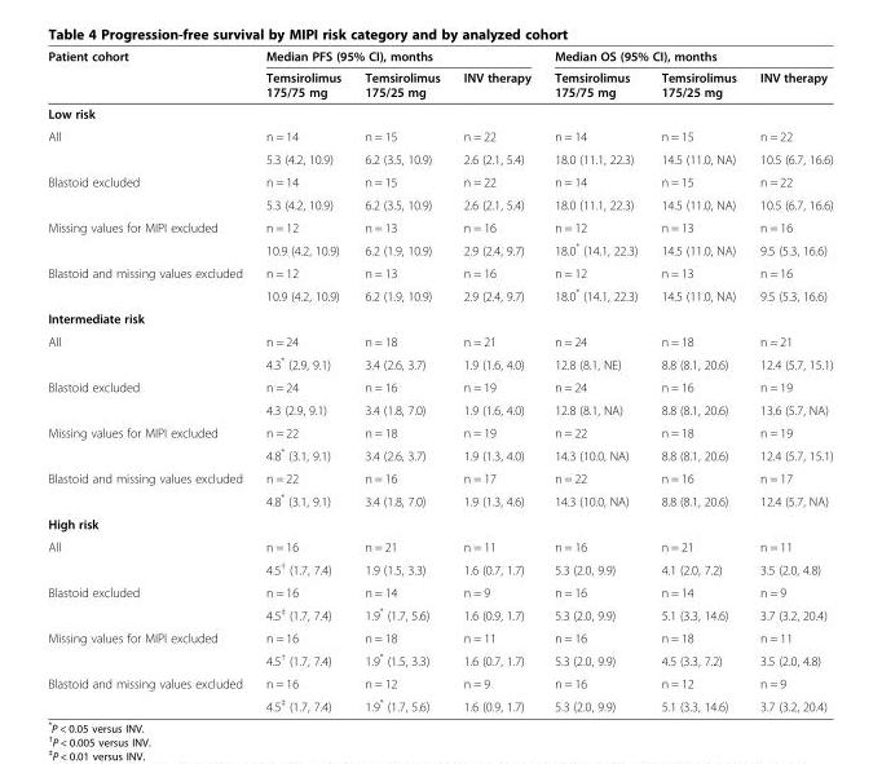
<table><thead><tr><td rowspan="2">Patient cohort</td><td colspan="3">Median PFS (95% CI), months</td><td colspan="3">Median OS (95% CI), months</td></tr><tr><td>Temsirolimus 175/75 mg</td><td>Temsirolimus 175/25 mg</td><td>INV therapy</td><td>Temsirolimus 175/75 mg</td><td>Temsirolimus 175/25 mg</td><td>INV therapy</td></tr></thead><tbody><tr><td colspan="7">Low risk</td></tr><tr><td rowspan="2">All</td><td>n = 14</td><td>n = 15</td><td>n = 22</td><td>n = 14</td><td>n = 15</td><td>n = 22</td></tr><tr><td>5.3 (4.2, 10.9)</td><td>6.2 (3.5, 10.9)</td><td>2.6 (2.1, 5.4)</td><td>18.0 (11.1, 22.3)</td><td>14.5 (11.0, NA)</td><td>10.5 (6.7, 16.6)</td></tr><tr><td rowspan="2">Blastoid excluded</td><td>n = 14</td><td>n = 15</td><td>n = 22</td><td>n = 14</td><td>n = 15</td><td>n = 22</td></tr><tr><td>5.3 (4.2, 10.9)</td><td>6.2 (3.5, 10.9)</td><td>2.6 (2.1, 5.4)</td><td>18.0 (11.1, 22.3)</td><td>14.5 (11.0, NA)</td><td>10.5 (6.7, 16.6)</td></tr><tr><td rowspan="2">Missing values for MIPI excluded</td><td>n = 12</td><td>n = 13</td><td>n = 16</td><td>n = 12</td><td>n = 13</td><td>n = 16</td></tr><tr><td>10.9 (4.2, 10.9)</td><td>6.2 (1.9, 10.9)</td><td>2.9 (2.4, 9.7)</td><td>18.0* (14.1, 22.3)</td><td>14.5 (11.0, NA)</td><td>9.5 (5.3, 16.6)</td></tr><tr><td rowspan="2">Blastoid and missing values excluded</td><td>n = 12</td><td>n = 13</td><td>n = 16</td><td>n = 12</td><td>n = 13</td><td>n = 16</td></tr><tr><td>10.9 (4.2, 10.9)</td><td>6.2 (1.9, 10.9)</td><td>2.9 (2.4, 9.7)</td><td>18.0* (14.1, 22.3)</td><td>14.5 (11.0, NA)</td><td>9.5 (5.3, 16.6)</td></tr><tr><td colspan="7">Intermediate risk</td></tr><tr><td rowspan="2">All</td><td>n = 24</td><td>n = 18</td><td>n = 21</td><td>n = 24</td><td>n = 18</td><td>n = 21</td></tr><tr><td>4.3* (2.9, 9.1)</td><td>3.4 (2.6, 3.7)</td><td>1.9 (1.6, 4.0)</td><td>12.8 (8.1, NE)</td><td>8.8 (8.1, 20.6)</td><td>12.4 (5.7, 15.1)</td></tr><tr><td rowspan="2">Blastoid excluded</td><td>n = 24</td><td>n = 16</td><td>n = 19</td><td>n = 24</td><td>n = 16</td><td>n = 19</td></tr><tr><td>4.3 (2.9, 9.1)</td><td>3.4 (1.8, 7.0)</td><td>1.9 (1.6, 4.0)</td><td>12.8 (8.1, NA)</td><td>8.8 (8.1, 20.6)</td><td>13.6 (5.7, NA)</td></tr><tr><td rowspan="2">Missing values for MIPI excluded</td><td>n = 22</td><td>n = 18</td><td>n = 19</td><td>n = 22</td><td>n = 18</td><td>n = 19</td></tr><tr><td>4.8* (3.1, 9.1)</td><td>3.4 (2.6, 3.7)</td><td>1.9 (1.3, 4.0)</td><td>14.3 (10.0, NA)</td><td>8.8 (8.1, 20.6)</td><td>12.4 (5.7, 15.1)</td></tr><tr><td rowspan="2">Blastoid and missing values excluded</td><td>n = 22</td><td>n = 16</td><td>n = 17</td><td>n = 22</td><td>n = 16</td><td>n = 17</td></tr><tr><td>4.8* (3.1, 9.1)</td><td>3.4 (1.8, 7.0)</td><td>1.9 (1.3, 4.6)</td><td>14.3 (10.0, NA)</td><td>8.8 (8.1, 20.6)</td><td>12.4 (5.7, NA)</td></tr><tr><td colspan="7">High risk</td></tr><tr><td rowspan="2">All</td><td>n = 16</td><td>n = 21</td><td>n = 11</td><td>n = 16</td><td>n = 21</td><td>n = 11</td></tr><tr><td>4.5<sup>†</sup> (1.7, 7.4)</td><td>1.9 (1.5, 3.3)</td><td>1.6 (0.7, 1.7)</td><td>5.3 (2.0, 9.9)</td><td>4.1 (2.0, 7.2)</td><td>3.5 (2.0, 4.8)</td></tr><tr><td rowspan="2">Blastoid excluded</td><td>n = 16</td><td>n = 14</td><td>n = 9</td><td>n = 16</td><td>n = 14</td><td>n = 9</td></tr><tr><td>4.5<sup>‡</sup> (1.7, 7.4)</td><td>1.9* (1.7, 5.6)</td><td>1.6 (0.9, 1.7)</td><td>5.3 (2.0, 9.9)</td><td>5.1 (3.3, 14.6)</td><td>3.7 (3.2, 20.4)</td></tr><tr><td rowspan="2">Missing values for MIPI excluded</td><td>n = 16</td><td>n = 18</td><td>n = 11</td><td>n = 16</td><td>n = 18</td><td>n = 11</td></tr><tr><td>4.5<sup>†</sup> (1.7, 7.4)</td><td>1.9* (1.5, 3.3)</td><td>1.6 (0.7, 1.7)</td><td>5.3 (2.0, 9.9)</td><td>4.5 (3.3, 7.2)</td><td>3.5 (2.0, 4.8)</td></tr><tr><td rowspan="2">Blastoid and missing values excluded</td><td>n = 16</td><td>n = 12</td><td>n = 9</td><td>n = 16</td><td>n = 12</td><td>n = 9</td></tr><tr><td>4.5<sup>‡</sup> (1.7, 7.4)</td><td>1.9* (1.7, 5.6)</td><td>1.6 (0.9, 1.7)</td><td>5.3 (2.0, 9.9)</td><td>5.1 (3.3, 14.6)</td><td>3.7 (3.2, 20.4)</td></tr></tbody></table>